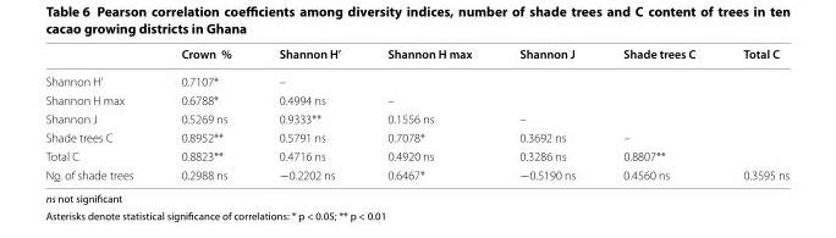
<table><thead><tr><td></td><td>Crown %</td><td>Shannon H’</td><td>Shannon H max</td><td>Shannon J</td><td>Shade trees C</td><td>Total C</td></tr></thead><tbody><tr><td>Shannon H’</td><td>0.7107*</td><td>–</td><td></td><td></td><td></td><td></td></tr><tr><td>Shannon H max</td><td>0.6788*</td><td>0.4994 ns</td><td>–</td><td></td><td></td><td></td></tr><tr><td>Shannon J</td><td>0.5269 ns</td><td>0.9333**</td><td>0.1556 ns</td><td>–</td><td></td><td></td></tr><tr><td>Shade trees C</td><td>0.8952**</td><td>0.5791 ns</td><td>0.7078*</td><td>0.3692 ns</td><td>–</td><td></td></tr><tr><td>Total C</td><td>0.8823**</td><td>0.4716 ns</td><td>0.4920 ns</td><td>0.3286 ns</td><td>0.8807**</td><td></td></tr><tr><td>No. of shade trees</td><td>0.2988 ns</td><td>−0.2202 ns</td><td>0.6467*</td><td>−0.5190 ns</td><td>0.4560 ns</td><td>0.3595 ns</td></tr></tbody></table>